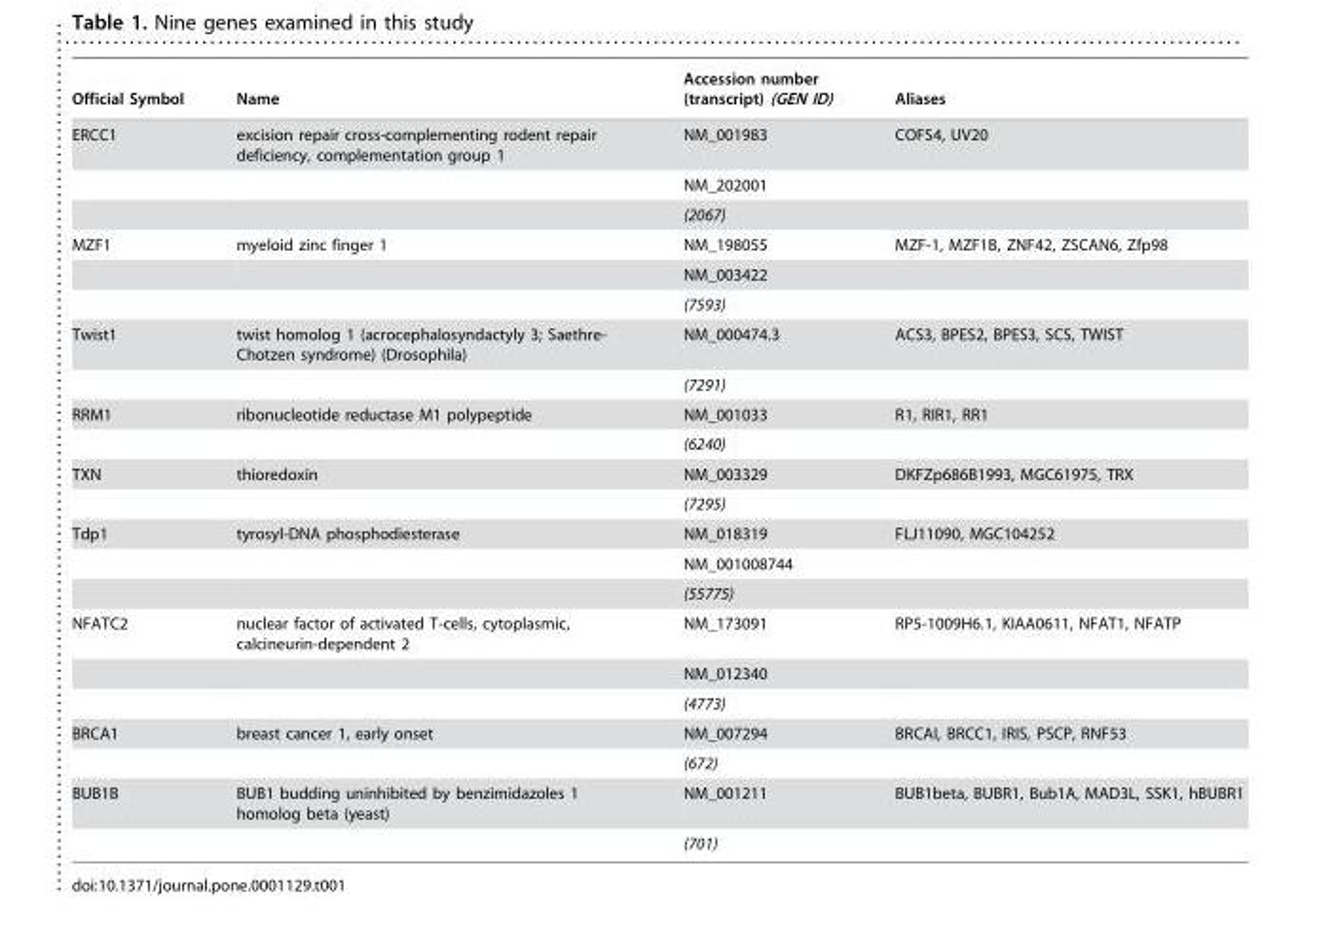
<table><thead><tr><td>Official Symbol</td><td>Name</td><td>Accession number (transcript) (GEN ID)</td><td>Aliases</td></tr></thead><tbody><tr><td rowspan="3">ERCC1</td><td>excision repair cross-complementing rodent repair deficiency, complementation group 1</td><td>NM_001983</td><td>COFS4, UV20</td></tr><tr><td></td><td>NM_202001</td><td></td></tr><tr><td></td><td>(2067)</td><td></td></tr><tr><td rowspan="3">MZF1</td><td>myeloid zinc finger 1</td><td>NM_198055</td><td>MZF-1, MZF1B, ZNF42, ZSCAN6, Zfp98</td></tr><tr><td></td><td>NM_003422</td><td></td></tr><tr><td></td><td>(7593)</td><td></td></tr><tr><td rowspan="2">Twist1</td><td>twist homolog 1 (acrocephalosyndactyly 3; Saethre- Chotzen syndrome) (Drosophila)</td><td>NM_000474.3</td><td>ACS3, BPES2, BPES3, SCS, TWIST</td></tr><tr><td></td><td>(7291)</td><td></td></tr><tr><td rowspan="2">RRM1</td><td>ribonucleotide reductase M1 polypeptide</td><td>NM_001033</td><td>R1, RIR1, RR1</td></tr><tr><td></td><td>(6240)</td><td></td></tr><tr><td rowspan="2">TXN</td><td>thioredoxin</td><td>NM_003329</td><td>DKFZp686B1993, MGC61975, TRX</td></tr><tr><td></td><td>(7295)</td><td></td></tr><tr><td rowspan="3">Tdp1</td><td>tyrosyl-DNA phosphodiesterase</td><td>NM_018319</td><td>FLJ11090, MGC104252</td></tr><tr><td></td><td>NM_001008744</td><td></td></tr><tr><td></td><td>(55775)</td><td></td></tr><tr><td rowspan="3">NFATC2</td><td>nuclear factor of activated T-cells, cytoplasmic, calcineurin-dependent 2</td><td>NM_173091</td><td>RP5-1009H6.1, KIAA0611, NFAT1, NFATP</td></tr><tr><td></td><td>NM_012340</td><td></td></tr><tr><td></td><td>(4773)</td><td></td></tr><tr><td rowspan="2">BRCA1</td><td>breast cancer 1, early onset</td><td>NM_007294</td><td>BRCAI, BRCC1, IRIS, PSCP, RNF53</td></tr><tr><td></td><td>(672)</td><td></td></tr><tr><td rowspan="2">BUB1B</td><td>BUB1 budding uninhibited by benzimidazoles 1 homolog beta (yeast)</td><td>NM_001211</td><td>BUB1beta, BUBR1, Bub1A, MAD3L, SSK1, hBUBR1</td></tr><tr><td></td><td>(701)</td><td></td></tr></tbody></table>